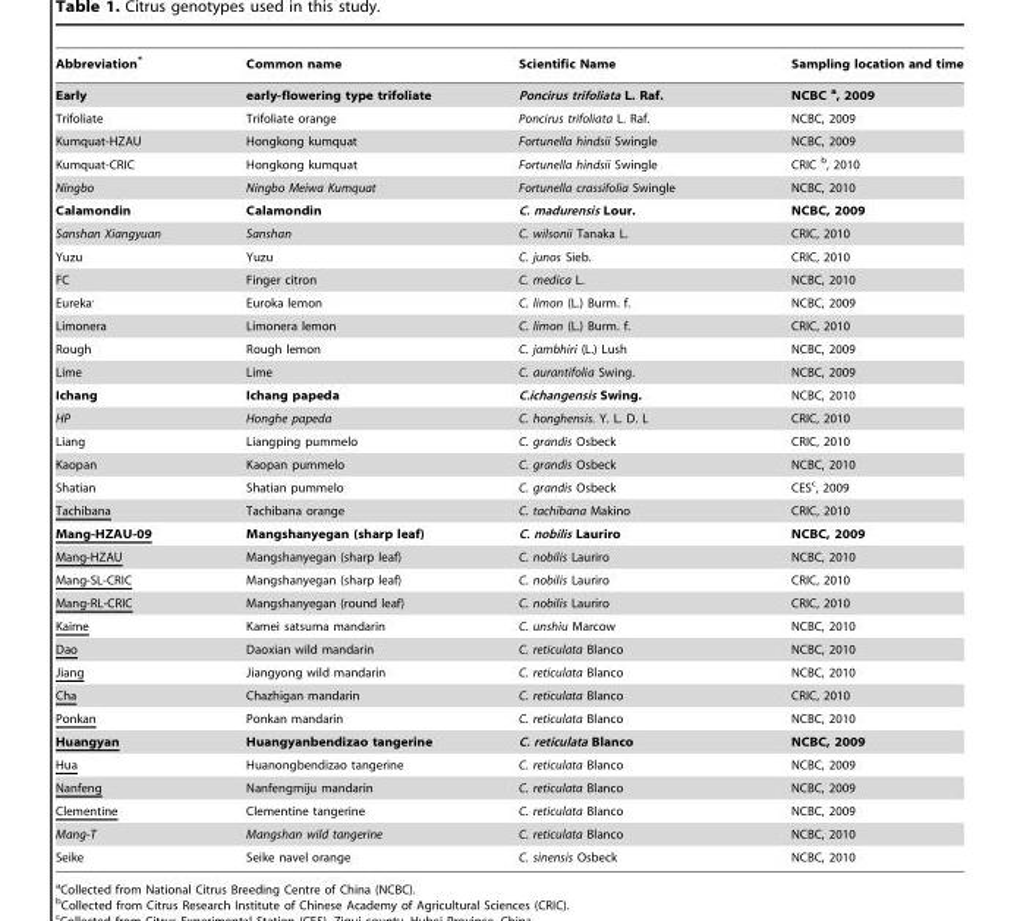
<table><thead><tr><td>Abbreviation*</td><td>Common name</td><td>Scientific Name</td><td>Sampling location and time</td></tr></thead><tbody><tr><td>Early</td><td>early-flowering type trifoliate</td><td>Poncirus trifoliata L. Raf.</td><td>NCBC a, 2009</td></tr><tr><td>Trifoliate</td><td>Trifoliate orange</td><td>Poncirus trifoliata L. Raf.</td><td>NCBC, 2009</td></tr><tr><td>Kumquat-HZAU</td><td>Hongkong kumquat</td><td>Fortunella hindsii Swingle</td><td>NCBC, 2009</td></tr><tr><td>Kumquat-CRIC</td><td>Hongkong kumquat</td><td>Fortunella hindsii Swingle</td><td>CRIC b, 2010</td></tr><tr><td>Ningbo</td><td>Ningbo Meiwa Kumquat</td><td>Fortunella crassifolia Swingle</td><td>NCBC, 2010</td></tr><tr><td>Calamondin</td><td>Calamondin</td><td>C. madurensis Lour.</td><td>NCBC, 2009</td></tr><tr><td>Sanshan Xiangyuan</td><td>Sanshan</td><td>C. wilsonii Tanaka L.</td><td>CRIC, 2010</td></tr><tr><td>Yuzu</td><td>Yuzu</td><td>C. junos Sieb.</td><td>CRIC, 2010</td></tr><tr><td>FC</td><td>Finger citron</td><td>C. medica L.</td><td>NCBC, 2010</td></tr><tr><td>Eureka<sup>,</sup></td><td>Euroka lemon</td><td>C. limon (L.) Burm. f.</td><td>NCBC, 2009</td></tr><tr><td>Limonera</td><td>Limonera lemon</td><td>C. limon (L.) Burm. f.</td><td>CRIC, 2010</td></tr><tr><td>Rough</td><td>Rough lemon</td><td>C. jambhiri (L.) Lush</td><td>NCBC, 2009</td></tr><tr><td>Lime</td><td>Lime</td><td>C. aurantifolia Swing.</td><td>NCBC, 2009</td></tr><tr><td>Ichang</td><td>Ichang papeda</td><td>C.ichangensis Swing.</td><td>NCBC, 2010</td></tr><tr><td>HP</td><td>Honghe papeda</td><td>C. honghensis. Y. L. D. L</td><td>CRIC, 2010</td></tr><tr><td>Liang</td><td>Liangping pummelo</td><td>C. grandis Osbeck</td><td>CRIC, 2010</td></tr><tr><td>Kaopan</td><td>Kaopan pummelo</td><td>C. grandis Osbeck</td><td>NCBC, 2010</td></tr><tr><td>Shatian</td><td>Shatian pummelo</td><td>C. grandis Osbeck</td><td>CES<sup>c</sup>, 2009</td></tr><tr><td>Tachibana</td><td>Tachibana orange</td><td>C. tachibana Makino</td><td>CRIC, 2010</td></tr><tr><td>Mang-HZAU-09</td><td>Mangshanyegan (sharp leaf)</td><td>C. nobilis Lauriro</td><td>NCBC, 2009</td></tr><tr><td>Mang-HZAU</td><td>Mangshanyegan (sharp leaf)</td><td>C. nobilis Lauriro</td><td>NCBC, 2010</td></tr><tr><td>Mang-SL-CRIC</td><td>Mangshanyegan (sharp leaf)</td><td>C. nobilis Lauriro</td><td>CRIC, 2010</td></tr><tr><td>Mang-RL-CRIC</td><td>Mangshanyegan (round leaf)</td><td>C. nobilis Lauriro</td><td>CRIC, 2010</td></tr><tr><td>Kaime</td><td>Kamei satsuma mandarin</td><td>C. unshiu Marcow</td><td>NCBC, 2010</td></tr><tr><td>Dao</td><td>Daoxian wild mandarin</td><td>C. reticulata Blanco</td><td>NCBC, 2010</td></tr><tr><td>Jiang</td><td>Jiangyong wild mandarin</td><td>C. reticulata Blanco</td><td>NCBC, 2010</td></tr><tr><td>Cha</td><td>Chazhigan mandarin</td><td>C. reticulata Blanco</td><td>CRIC, 2010</td></tr><tr><td>Ponkan</td><td>Ponkan mandarin</td><td>C. reticulata Blanco</td><td>NCBC, 2010</td></tr><tr><td>Huangyan</td><td>Huangyanbendizao tangerine</td><td>C. reticulata Blanco</td><td>NCBC, 2009</td></tr><tr><td>Hua</td><td>Huanongbendizao tangerine</td><td>C. reticulata Blanco</td><td>NCBC, 2009</td></tr><tr><td>Nanfeng</td><td>Nanfengmiju mandarin</td><td>C. reticulata Blanco</td><td>NCBC, 2009</td></tr><tr><td>Clementine</td><td>Clementine tangerine</td><td>C. reticulata Blanco</td><td>NCBC, 2009</td></tr><tr><td>Mang-T</td><td>Mangshan wild tangerine</td><td>C. reticulata Blanco</td><td>NCBC, 2010</td></tr><tr><td>Seike</td><td>Seike navel orange</td><td>C. sinensis Osbeck</td><td>NCBC, 2010</td></tr></tbody></table>